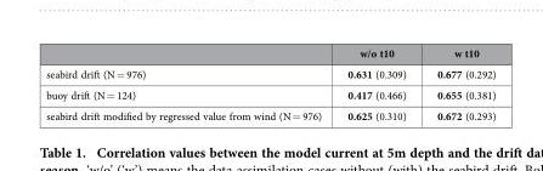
<table><thead><tr><td></td><td>w/o t10</td><td>w t10</td></tr></thead><tbody><tr><td>seabird drift (N = 976)</td><td>0.631 (0.309)</td><td>0.677 (0.292)</td></tr><tr><td>buoy drift (N = 124)</td><td>0.417 (0.466)</td><td>0.655 (0.381)</td></tr><tr><td>seabird drift modified by regressed value from wind (N = 976)</td><td>0.625 (0.310)</td><td>0.672 (0.293)</td></tr></tbody></table>